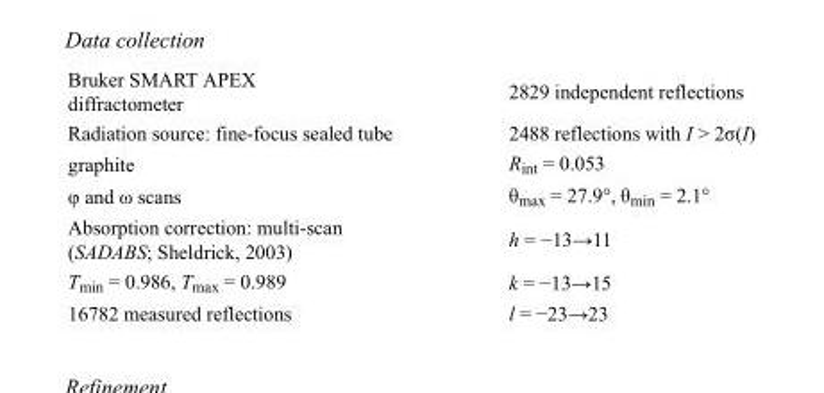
<table><tbody><tr><td>Bruker SMART APEX diffractometer</td><td>2829 independent reflections</td></tr><tr><td>Radiation source: fine-focus sealed tube</td><td>2488 reflections with I &gt; 2σ(I)</td></tr><tr><td>graphite</td><td>R<sub>int</sub> = 0.053</td></tr><tr><td>φ and ω scans</td><td>θ<sub>max</sub> = 27.9°, θ<sub>min</sub> = 2.1°</td></tr><tr><td>Absorption correction: multi-scan (SADABS; Sheldrick, 2003)</td><td>h = −13→11</td></tr><tr><td>T<sub>min</sub> = 0.986, T<sub>max</sub> = 0.989</td><td>k = −13→15</td></tr><tr><td>16782 measured reflections</td><td>l = −23→23</td></tr></tbody></table>